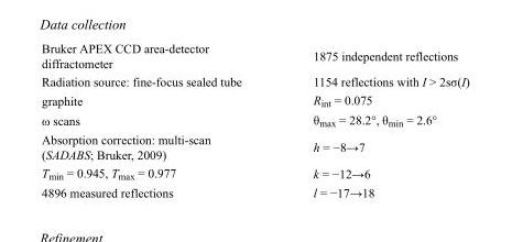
<table><tbody><tr><td>Bruker APEX CCD area-detector diffractometer</td><td>1875 independent reflections</td></tr><tr><td>Radiation source: fine-focus sealed tube</td><td>1154 reflections with I &gt; 2sσ(I)</td></tr><tr><td>graphite</td><td>R<sub>int</sub> = 0.075</td></tr><tr><td>ω scans</td><td>θ<sub>max</sub> = 28.2°, θ<sub>min</sub> = 2.6°</td></tr><tr><td>Absorption correction: multi-scan (SADABS; Bruker, 2009)</td><td>h = −8→7</td></tr><tr><td>T<sub>min</sub> = 0.945, T<sub>max</sub> = 0.977</td><td>k = −12→6</td></tr><tr><td>4896 measured reflections</td><td>l = −17→18</td></tr></tbody></table>